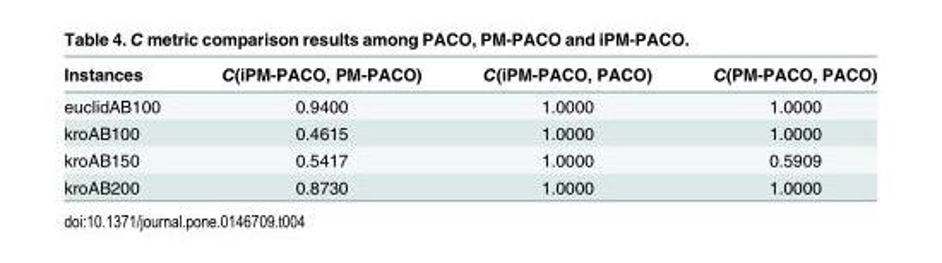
<table><thead><tr><td>Instances</td><td>C(iPM-PACO, PM-PACO)</td><td>C(iPM-PACO, PACO)</td><td>C(PM-PACO, PACO)</td></tr></thead><tbody><tr><td>euclidAB100</td><td>0.9400</td><td>1.0000</td><td>1.0000</td></tr><tr><td>kroAB100</td><td>0.4615</td><td>1.0000</td><td>1.0000</td></tr><tr><td>kroAB150</td><td>0.5417</td><td>1.0000</td><td>0.5909</td></tr><tr><td>kroAB200</td><td>0.8730</td><td>1.0000</td><td>1.0000</td></tr></tbody></table>